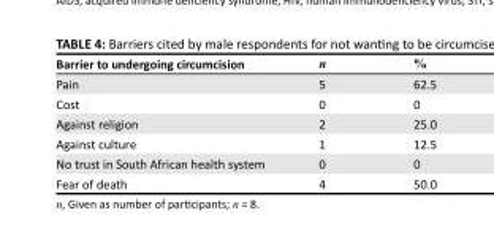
<table><thead><tr><td>Barrier to undergoing circumcision</td><td>n</td><td>%</td></tr></thead><tbody><tr><td>Pain</td><td>5</td><td>62.5</td></tr><tr><td>Cost</td><td>0</td><td>0</td></tr><tr><td>Against religion</td><td>2</td><td>25.0</td></tr><tr><td>Against culture</td><td>1</td><td>12.5</td></tr><tr><td>No trust in South African health system</td><td>0</td><td>0</td></tr><tr><td>Fear of death</td><td>4</td><td>50.0</td></tr></tbody></table>